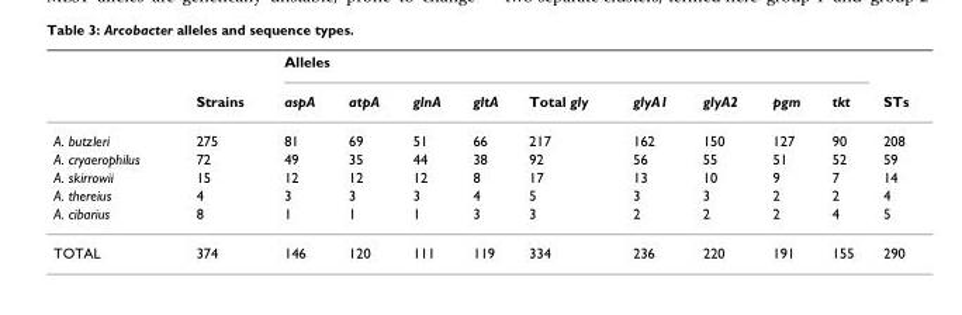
<table><thead><tr><td rowspan="2"></td><td rowspan="2">Strains</td><td colspan="9">Alleles</td><td rowspan="2">STs</td></tr><tr><td>aspA</td><td>atpA</td><td>glnA</td><td>gltA</td><td>Total gly</td><td>glyA1</td><td>glyA2</td><td>pgm</td><td>tkt</td></tr></thead><tbody><tr><td>A. butzleri</td><td>275</td><td>81</td><td>69</td><td>51</td><td>66</td><td>217</td><td>162</td><td>150</td><td>127</td><td>90</td><td>208</td></tr><tr><td>A. cryaerophilus</td><td>72</td><td>49</td><td>35</td><td>44</td><td>38</td><td>92</td><td>56</td><td>55</td><td>51</td><td>52</td><td>59</td></tr><tr><td>A. skirrowii</td><td>15</td><td>12</td><td>12</td><td>12</td><td>8</td><td>17</td><td>13</td><td>10</td><td>9</td><td>7</td><td>14</td></tr><tr><td>A. thereius</td><td>4</td><td>3</td><td>3</td><td>3</td><td>4</td><td>5</td><td>3</td><td>3</td><td>2</td><td>2</td><td>4</td></tr><tr><td>A. cibarius</td><td>8</td><td>1</td><td>1</td><td>1</td><td>3</td><td>3</td><td>2</td><td>2</td><td>2</td><td>4</td><td>5</td></tr><tr><td>TOTAL</td><td>374</td><td>146</td><td>120</td><td>111</td><td>119</td><td>334</td><td>236</td><td>220</td><td>191</td><td>155</td><td>290</td></tr></tbody></table>